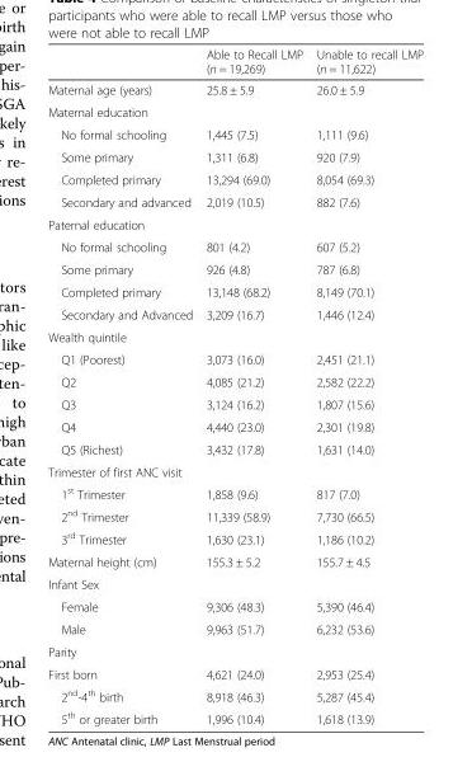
<table><thead><tr><td></td><td>Able to Recall LMP (n = 19,269)</td><td>Unable to recall LMP (n = 11,622)</td></tr></thead><tbody><tr><td>Maternal age (years)</td><td>25.8 ± 5.9</td><td>26.0 ± 5.9</td></tr><tr><td colspan="3">Maternal education</td></tr><tr><td>No formal schooling</td><td>1,445 (7.5)</td><td>1,111 (9.6)</td></tr><tr><td>Some primary</td><td>1,311 (6.8)</td><td>920 (7.9)</td></tr><tr><td>Completed primary</td><td>13,294 (69.0)</td><td>8,054 (69.3)</td></tr><tr><td>Secondary and advanced</td><td>2,019 (10.5)</td><td>882 (7.6)</td></tr><tr><td colspan="3">Paternal education</td></tr><tr><td>No formal schooling</td><td>801 (4.2)</td><td>607 (5.2)</td></tr><tr><td>Some primary</td><td>926 (4.8)</td><td>787 (6.8)</td></tr><tr><td>Completed primary</td><td>13,148 (68.2)</td><td>8,149 (70.1)</td></tr><tr><td>Secondary and Advanced</td><td>3,209 (16.7)</td><td>1,446 (12.4)</td></tr><tr><td colspan="3">Wealth quintile</td></tr><tr><td>Q1 (Poorest)</td><td>3,073 (16.0)</td><td>2,451 (21.1)</td></tr><tr><td>Q2</td><td>4,085 (21.2)</td><td>2,582 (22.2)</td></tr><tr><td>Q3</td><td>3,124 (16.2)</td><td>1,807 (15.6)</td></tr><tr><td>Q4</td><td>4,440 (23.0)</td><td>2,301 (19.8)</td></tr><tr><td>Q5 (Richest)</td><td>3,432 (17.8)</td><td>1,631 (14.0)</td></tr><tr><td colspan="3">Trimester of first ANC visit</td></tr><tr><td>1<sup>st</sup> Trimester</td><td>1,858 (9.6)</td><td>817 (7.0)</td></tr><tr><td>2<sup>nd</sup> Trimester</td><td>11,339 (58.9)</td><td>7,730 (66.5)</td></tr><tr><td>3<sup>rd</sup> Trimester</td><td>1,630 (23.1)</td><td>1,186 (10.2)</td></tr><tr><td>Maternal height (cm)</td><td>155.3 ± 5.2</td><td>155.7 ± 4.5</td></tr><tr><td colspan="3">Infant Sex</td></tr><tr><td>Female</td><td>9,306 (48.3)</td><td>5,390 (46.4)</td></tr><tr><td>Male</td><td>9,963 (51.7)</td><td>6,232 (53.6)</td></tr><tr><td colspan="3">Parity</td></tr><tr><td>First born</td><td>4,621 (24.0)</td><td>2,953 (25.4)</td></tr><tr><td>2<sup>nd</sup>-4<sup>th</sup> birth</td><td>8,918 (46.3)</td><td>5,287 (45.4)</td></tr><tr><td>5<sup>th</sup> or greater birth</td><td>1,996 (10.4)</td><td>1,618 (13.9)</td></tr></tbody></table>